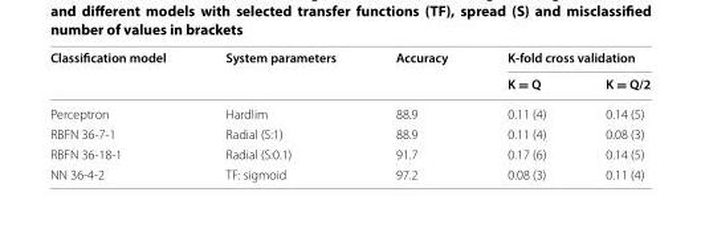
<table><thead><tr><td rowspan="2">Classification model</td><td rowspan="2">System parameters</td><td rowspan="2">Accuracy</td><td colspan="2">K-fold cross validation</td></tr><tr><td>K = Q</td><td>K = Q/2</td></tr></thead><tbody><tr><td>Perceptron</td><td>Hardlim</td><td>88.9</td><td>0.11 (4)</td><td>0.14 (5)</td></tr><tr><td>RBFN 36-7-1</td><td>Radial (S:1)</td><td>88.9</td><td>0.11 (4)</td><td>0.08 (3)</td></tr><tr><td>RBFN 36-18-1</td><td>Radial (S:0.1)</td><td>91.7</td><td>0.17 (6)</td><td>0.14 (5)</td></tr><tr><td>NN 36-4-2</td><td>TF: sigmoid</td><td>97.2</td><td>0.08 (3)</td><td>0.11 (4)</td></tr></tbody></table>